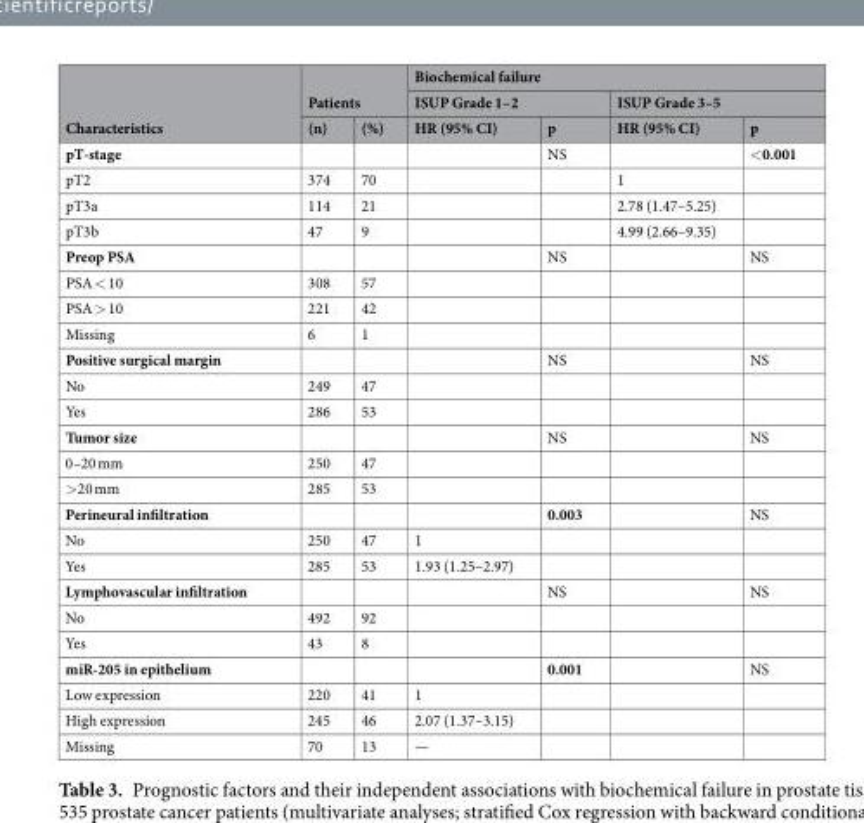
<table><thead><tr><td rowspan="3">Characteristics</td><td rowspan="2" colspan="2">Patients</td><td colspan="4">Biochemical failure</td></tr><tr><td colspan="2">ISUP Grade 1–2</td><td colspan="2">ISUP Grade 3–5</td></tr><tr><td>(n)</td><td>(%)</td><td>HR (95% CI)</td><td>p</td><td>HR (95% CI)</td><td>p</td></tr></thead><tbody><tr><td>pT-stage</td><td></td><td></td><td></td><td>NS</td><td></td><td>&lt;0.001</td></tr><tr><td>pT2</td><td>374</td><td>70</td><td></td><td></td><td>1</td><td></td></tr><tr><td>pT3a</td><td>114</td><td>21</td><td></td><td></td><td>2.78 (1.47–5.25)</td><td></td></tr><tr><td>pT3b</td><td>47</td><td>9</td><td></td><td></td><td>4.99 (2.66–9.35)</td><td></td></tr><tr><td>Preop PSA</td><td></td><td></td><td></td><td>NS</td><td></td><td>NS</td></tr><tr><td>PSA &lt; 10</td><td>308</td><td>57</td><td></td><td></td><td></td><td></td></tr><tr><td>PSA &gt; 10</td><td>221</td><td>42</td><td></td><td></td><td></td><td></td></tr><tr><td>Missing</td><td>6</td><td>1</td><td></td><td></td><td></td><td></td></tr><tr><td>Positive surgical margin</td><td></td><td></td><td></td><td>NS</td><td></td><td>NS</td></tr><tr><td>No</td><td>249</td><td>47</td><td></td><td></td><td></td><td></td></tr><tr><td>Yes</td><td>286</td><td>53</td><td></td><td></td><td></td><td></td></tr><tr><td>Tumor size</td><td></td><td></td><td></td><td>NS</td><td></td><td>NS</td></tr><tr><td>0–20 mm</td><td>250</td><td>47</td><td></td><td></td><td></td><td></td></tr><tr><td>&gt;20 mm</td><td>285</td><td>53</td><td></td><td></td><td></td><td></td></tr><tr><td>Perineural infiltration</td><td></td><td></td><td></td><td>0.003</td><td></td><td>NS</td></tr><tr><td>No</td><td>250</td><td>47</td><td>1</td><td></td><td></td><td></td></tr><tr><td>Yes</td><td>285</td><td>53</td><td>1.93 (1.25–2.97)</td><td></td><td></td><td></td></tr><tr><td>Lymphovascular infiltration</td><td></td><td></td><td></td><td>NS</td><td></td><td>NS</td></tr><tr><td>No</td><td>492</td><td>92</td><td></td><td></td><td></td><td></td></tr><tr><td>Yes</td><td>43</td><td>8</td><td></td><td></td><td></td><td></td></tr><tr><td>miR-205 in epithelium</td><td></td><td></td><td></td><td>0.001</td><td></td><td>NS</td></tr><tr><td>Low expression</td><td>220</td><td>41</td><td>1</td><td></td><td></td><td></td></tr><tr><td>High expression</td><td>245</td><td>46</td><td>2.07 (1.37–3.15)</td><td></td><td></td><td></td></tr><tr><td>Missing</td><td>70</td><td>13</td><td>—</td><td></td><td></td><td></td></tr></tbody></table>